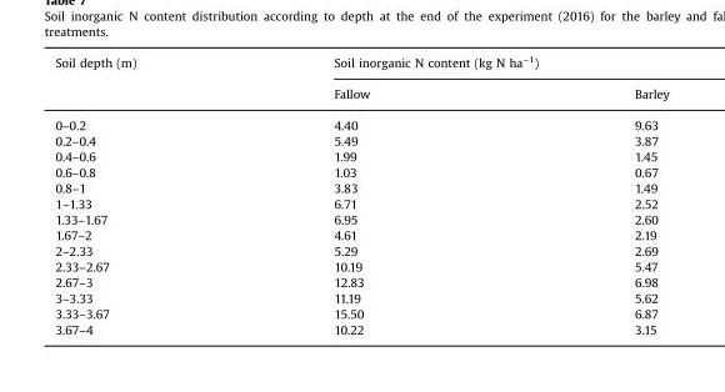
<table><thead><tr><td rowspan="2">Soil depth (m)</td><td colspan="2">Soil inorganic N content (kg N ha<sup>−1</sup>)</td></tr><tr><td>Fallow</td><td>Barley</td></tr></thead><tbody><tr><td>0–0.2</td><td>4.40</td><td>9.63</td></tr><tr><td>0.2–0.4</td><td>5.49</td><td>3.87</td></tr><tr><td>0.4–0.6</td><td>1.99</td><td>1.45</td></tr><tr><td>0.6–0.8</td><td>1.03</td><td>0.67</td></tr><tr><td>0.8–1</td><td>3.83</td><td>1.49</td></tr><tr><td>1–1.33</td><td>6.71</td><td>2.52</td></tr><tr><td>1.33–1.67</td><td>6.95</td><td>2.60</td></tr><tr><td>1.67–2</td><td>4.61</td><td>2.19</td></tr><tr><td>2–2.33</td><td>5.29</td><td>2.69</td></tr><tr><td>2.33–2.67</td><td>10.19</td><td>5.47</td></tr><tr><td>2.67–3</td><td>12.83</td><td>6.98</td></tr><tr><td>3–3.33</td><td>11.19</td><td>5.62</td></tr><tr><td>3.33–3.67</td><td>15.50</td><td>6.87</td></tr><tr><td>3.67–4</td><td>10.22</td><td>3.15</td></tr></tbody></table>